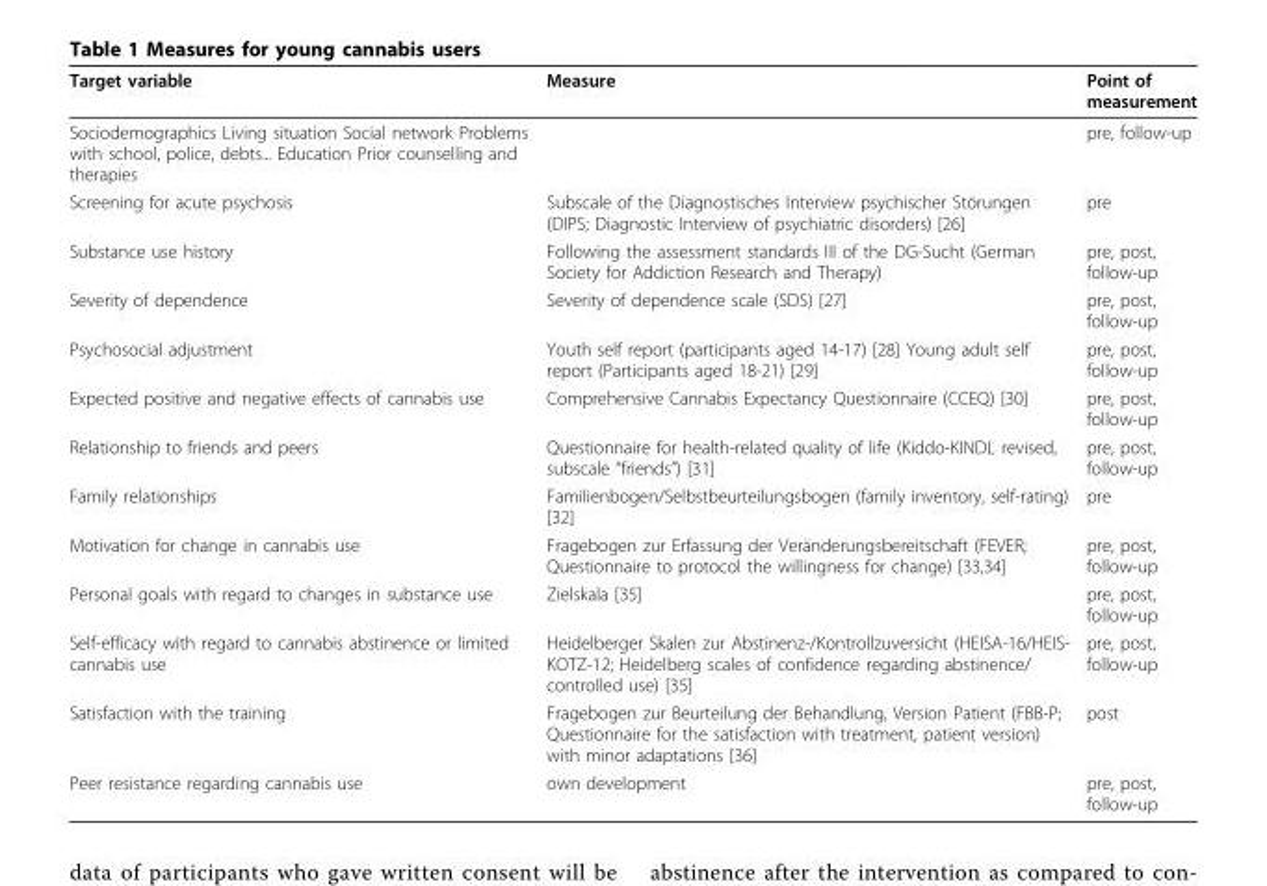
<table><thead><tr><td>Target variable</td><td>Measure</td><td>Point of measurement</td></tr></thead><tbody><tr><td>Sociodemographics Living situation Social network Problems with school, police, debts... Education Prior counselling and therapies</td><td></td><td>pre, follow-up</td></tr><tr><td>Screening for acute psychosis</td><td>Subscale of the Diagnostisches Interview psychischer Störungen (DIPS; Diagnostic Interview of psychiatric disorders) [26]</td><td>pre</td></tr><tr><td>Substance use history</td><td>Following the assessment standards III of the DG-Sucht (German Society for Addiction Research and Therapy)</td><td>pre, post, follow-up</td></tr><tr><td>Severity of dependence</td><td>Severity of dependence scale (SDS) [27]</td><td>pre, post, follow-up</td></tr><tr><td>Psychosocial adjustment</td><td>Youth self report (participants aged 14-17) [28] Young adult self report (Participants aged 18-21) [29]</td><td>pre, post, follow-up</td></tr><tr><td>Expected positive and negative effects of cannabis use</td><td>Comprehensive Cannabis Expectancy Questionnaire (CCEQ) [30]</td><td>pre, post, follow-up</td></tr><tr><td>Relationship to friends and peers</td><td>Questionnaire for health-related quality of life (Kiddo-KINDL revised, subscale “friends”) [31]</td><td>pre, post, follow-up</td></tr><tr><td>Family relationships</td><td>Familienbogen/Selbstbeurteilungsbogen (family inventory, self-rating) [32]</td><td>pre</td></tr><tr><td>Motivation for change in cannabis use</td><td>Fragebogen zur Erfassung der Veränderungsbereitschaft (FEVER; Questionnaire to protocol the willingness for change) [33,34]</td><td>pre, post, follow-up</td></tr><tr><td>Personal goals with regard to changes in substance use</td><td>Zielskala [35]</td><td>pre, post, follow-up</td></tr><tr><td>Self-efficacy with regard to cannabis abstinence or limited cannabis use</td><td>Heidelberger Skalen zur Abstinenz-/Kontrollzuversicht (HEISA-16/HEIS- KOTZ-12; Heidelberg scales of confidence regarding abstinence/ controlled use) [35]</td><td>pre, post, follow-up</td></tr><tr><td>Satisfaction with the training</td><td>Fragebogen zur Beurteilung der Behandlung, Version Patient (FBB-P; Questionnaire for the satisfaction with treatment, patient version) with minor adaptations [36]</td><td>post</td></tr><tr><td>Peer resistance regarding cannabis use</td><td>own development</td><td>pre, post, follow-up</td></tr></tbody></table>